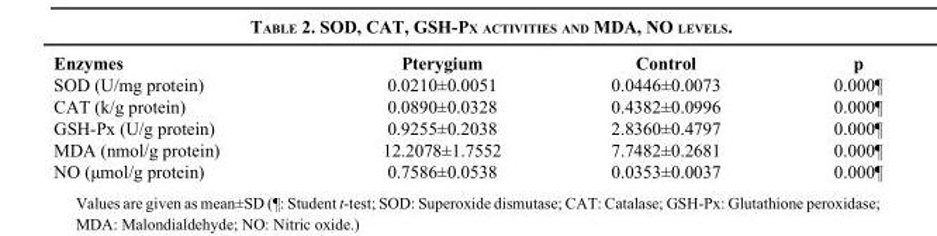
<table><thead><tr><td>Enzymes</td><td>Pterygium</td><td>Control</td><td>p</td></tr></thead><tbody><tr><td>SOD (U/mg protein)</td><td>0.0210±0.0051</td><td>0.0446±0.0073</td><td>0.000¶</td></tr><tr><td>CAT (k/g protein)</td><td>0.0890±0.0328</td><td>0.4382±0.0996</td><td>0.000¶</td></tr><tr><td>GSH-Px (U/g protein)</td><td>0.9255±0.2038</td><td>2.8360±0.4797</td><td>0.000¶</td></tr><tr><td>MDA (nmol/g protein)</td><td>12.2078±1.7552</td><td>7.7482±0.2681</td><td>0.000¶</td></tr><tr><td>NO (μmol/g protein)</td><td>0.7586±0.0538</td><td>0.0353±0.0037</td><td>0.000¶</td></tr></tbody></table>